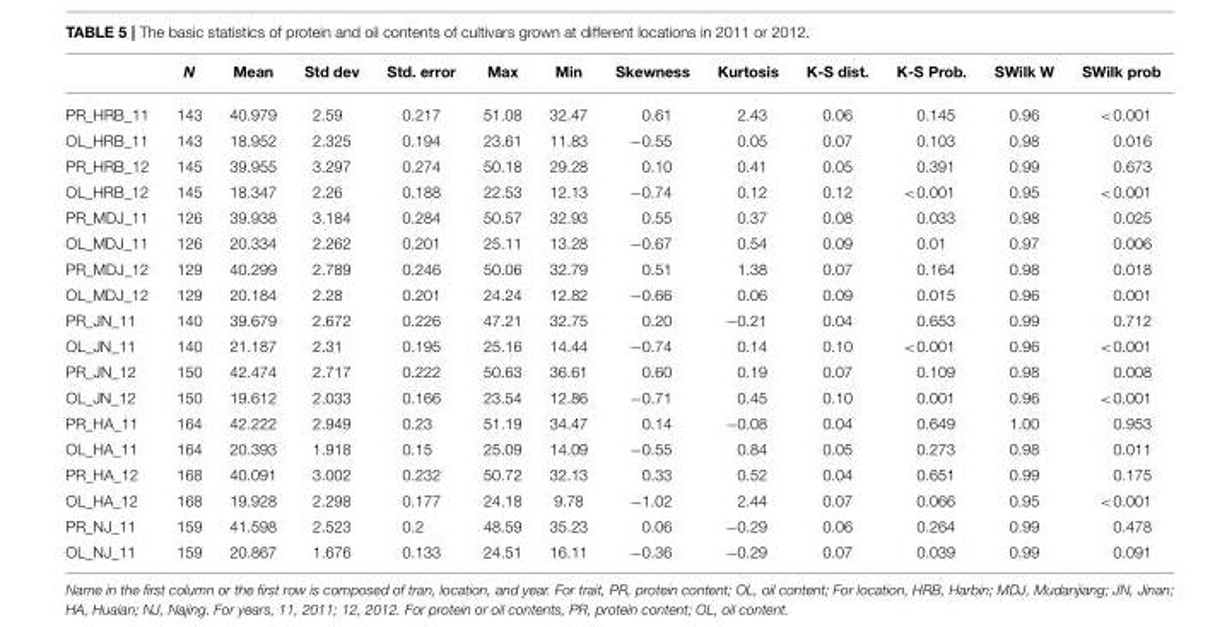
<table><thead><tr><td></td><td>N</td><td>Mean</td><td>Std dev</td><td>Std. error</td><td>Max</td><td>Min</td><td>Skewness</td><td>Kurtosis</td><td>K-S dist.</td><td>K-S Prob.</td><td>SWilk W</td><td>SWilk prob</td></tr></thead><tbody><tr><td>PR_HRB_11</td><td>143</td><td>40.979</td><td>2.59</td><td>0.217</td><td>51.08</td><td>32.47</td><td>0.61</td><td>2.43</td><td>0.06</td><td>0.145</td><td>0.96</td><td>&lt;0.001</td></tr><tr><td>OL_HRB_11</td><td>143</td><td>18.952</td><td>2.325</td><td>0.194</td><td>23.61</td><td>11.83</td><td>−0.55</td><td>0.05</td><td>0.07</td><td>0.103</td><td>0.98</td><td>0.016</td></tr><tr><td>PR_HRB_12</td><td>145</td><td>39.955</td><td>3.297</td><td>0.274</td><td>50.18</td><td>29.28</td><td>0.10</td><td>0.41</td><td>0.05</td><td>0.391</td><td>0.99</td><td>0.673</td></tr><tr><td>OL_HRB_12</td><td>145</td><td>18.347</td><td>2.26</td><td>0.188</td><td>22.53</td><td>12.13</td><td>−0.74</td><td>0.12</td><td>0.12</td><td>&lt;0.001</td><td>0.95</td><td>&lt;0.001</td></tr><tr><td>PR_MDJ_11</td><td>126</td><td>39.938</td><td>3.184</td><td>0.284</td><td>50.57</td><td>32.93</td><td>0.55</td><td>0.37</td><td>0.08</td><td>0.033</td><td>0.98</td><td>0.025</td></tr><tr><td>OL_MDJ_11</td><td>126</td><td>20.334</td><td>2.262</td><td>0.201</td><td>25.11</td><td>13.28</td><td>−0.67</td><td>0.54</td><td>0.09</td><td>0.01</td><td>0.97</td><td>0.006</td></tr><tr><td>PR_MDJ_12</td><td>129</td><td>40.299</td><td>2.789</td><td>0.246</td><td>50.06</td><td>32.79</td><td>0.51</td><td>1.38</td><td>0.07</td><td>0.164</td><td>0.98</td><td>0.018</td></tr><tr><td>OL_MDJ_12</td><td>129</td><td>20.184</td><td>2.28</td><td>0.201</td><td>24.24</td><td>12.82</td><td>−0.66</td><td>0.06</td><td>0.09</td><td>0.015</td><td>0.96</td><td>0.001</td></tr><tr><td>PR_JN_11</td><td>140</td><td>39.679</td><td>2.672</td><td>0.226</td><td>47.21</td><td>32.75</td><td>0.20</td><td>−0.21</td><td>0.04</td><td>0.653</td><td>0.99</td><td>0.712</td></tr><tr><td>OL_JN_11</td><td>140</td><td>21.187</td><td>2.31</td><td>0.195</td><td>25.16</td><td>14.44</td><td>−0.74</td><td>0.14</td><td>0.10</td><td>&lt;0.001</td><td>0.96</td><td>&lt;0.001</td></tr><tr><td>PR_JN_12</td><td>150</td><td>42.474</td><td>2.717</td><td>0.222</td><td>50.63</td><td>36.61</td><td>0.60</td><td>0.19</td><td>0.07</td><td>0.109</td><td>0.98</td><td>0.008</td></tr><tr><td>OL_JN_12</td><td>150</td><td>19.612</td><td>2.033</td><td>0.166</td><td>23.54</td><td>12.86</td><td>−0.71</td><td>0.45</td><td>0.10</td><td>0.001</td><td>0.96</td><td>&lt;0.001</td></tr><tr><td>PR_HA_11</td><td>164</td><td>42.222</td><td>2.949</td><td>0.23</td><td>51.19</td><td>34.47</td><td>0.14</td><td>−0.08</td><td>0.04</td><td>0.649</td><td>1.00</td><td>0.953</td></tr><tr><td>OL_HA_11</td><td>164</td><td>20.393</td><td>1.918</td><td>0.15</td><td>25.09</td><td>14.09</td><td>−0.55</td><td>0.84</td><td>0.05</td><td>0.273</td><td>0.98</td><td>0.011</td></tr><tr><td>PR_HA_12</td><td>168</td><td>40.091</td><td>3.002</td><td>0.232</td><td>50.72</td><td>32.13</td><td>0.33</td><td>0.52</td><td>0.04</td><td>0.651</td><td>0.99</td><td>0.175</td></tr><tr><td>OL_HA_12</td><td>168</td><td>19.928</td><td>2.298</td><td>0.177</td><td>24.18</td><td>9.78</td><td>−1.02</td><td>2.44</td><td>0.07</td><td>0.066</td><td>0.95</td><td>&lt;0.001</td></tr><tr><td>PR_NJ_11</td><td>159</td><td>41.598</td><td>2.523</td><td>0.2</td><td>48.59</td><td>35.23</td><td>0.06</td><td>−0.29</td><td>0.06</td><td>0.264</td><td>0.99</td><td>0.478</td></tr><tr><td>OL_NJ_11</td><td>159</td><td>20.867</td><td>1.676</td><td>0.133</td><td>24.51</td><td>16.11</td><td>−0.36</td><td>−0.29</td><td>0.07</td><td>0.039</td><td>0.99</td><td>0.091</td></tr></tbody></table>